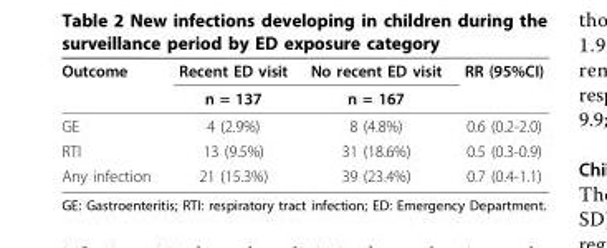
<table><thead><tr><td rowspan="2">Outcome</td><td rowspan="2">Recent ED visit n = 137</td><td rowspan="2">No recent ED visit n = 167</td><td rowspan="2">RR (95%CI)</td></tr><tr></tr></thead><tbody><tr><td>GE</td><td>4 (2.9%)</td><td>8 (4.8%)</td><td>0.6 (0.2-2.0)</td></tr><tr><td>RTI</td><td>13 (9.5%)</td><td>31 (18.6%)</td><td>0.5 (0.3-0.9)</td></tr><tr><td>Any infection</td><td>21 (15.3%)</td><td>39 (23.4%)</td><td>0.7 (0.4-1.1)</td></tr></tbody></table>